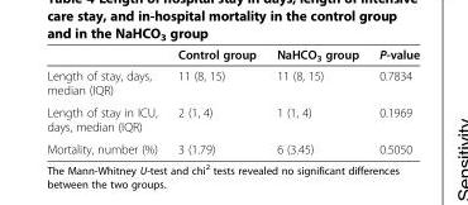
<table><thead><tr><td></td><td>Control group</td><td>NaHCO<sub>3</sub> group</td><td>P-value</td></tr></thead><tbody><tr><td>Length of stay, days, median (IQR)</td><td>11 (8, 15)</td><td>11 (8, 15)</td><td>0.7834</td></tr><tr><td>Length of stay in ICU, days, median (IQR)</td><td>2 (1, 4)</td><td>1 (1, 4)</td><td>0.1969</td></tr><tr><td>Mortality, number (%)</td><td>3 (1.79)</td><td>6 (3.45)</td><td>0.5050</td></tr></tbody></table>